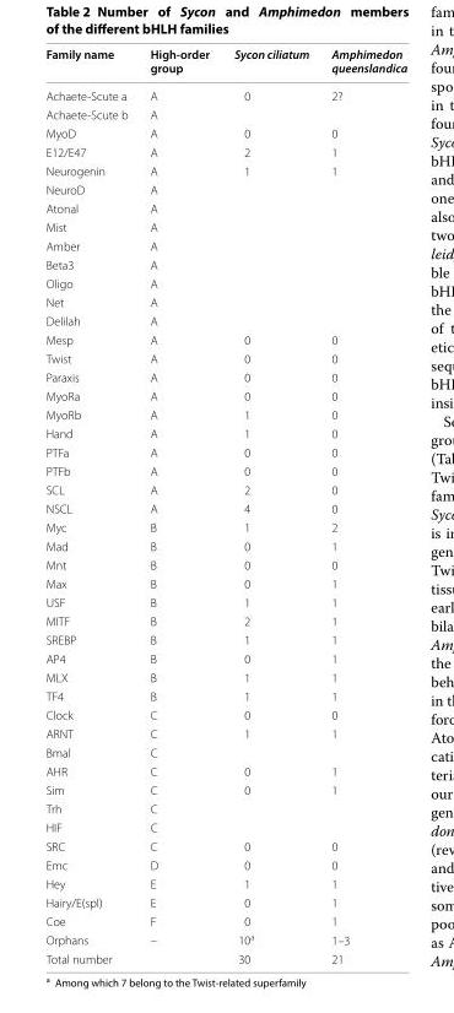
<table><thead><tr><td>Family name</td><td>High-order group</td><td>Sycon ciliatum</td><td>Amphimedon queenslandica</td></tr></thead><tbody><tr><td>Achaete-Scute a</td><td>A</td><td>0</td><td>2?</td></tr><tr><td>Achaete-Scute b</td><td>A</td><td></td><td></td></tr><tr><td>MyoD</td><td>A</td><td>0</td><td>0</td></tr><tr><td>E12/E47</td><td>A</td><td>2</td><td>1</td></tr><tr><td>Neurogenin</td><td>A</td><td rowspan="9">1</td><td rowspan="9">1</td></tr><tr><td>NeuroD</td><td>A</td></tr><tr><td>Atonal</td><td>A</td></tr><tr><td>Mist</td><td>A</td></tr><tr><td>Amber</td><td>A</td></tr><tr><td>Beta3</td><td>A</td></tr><tr><td>Oligo</td><td>A</td></tr><tr><td>Net</td><td>A</td></tr><tr><td>Delilah</td><td>A</td></tr><tr><td>Mesp</td><td>A</td><td>0</td><td>0</td></tr><tr><td>Twist</td><td>A</td><td>0</td><td>0</td></tr><tr><td>Paraxis</td><td>A</td><td>0</td><td>0</td></tr><tr><td>MyoRa</td><td>A</td><td>0</td><td>0</td></tr><tr><td>MyoRb</td><td>A</td><td>1</td><td>0</td></tr><tr><td>Hand</td><td>A</td><td>1</td><td>0</td></tr><tr><td>PTFa</td><td>A</td><td>0</td><td>0</td></tr><tr><td>PTFb</td><td>A</td><td>0</td><td>0</td></tr><tr><td>SCL</td><td>A</td><td>2</td><td>0</td></tr><tr><td>NSCL</td><td>A</td><td>4</td><td>0</td></tr><tr><td>Myc</td><td>B</td><td>1</td><td>2</td></tr><tr><td>Mad</td><td>B</td><td>0</td><td>1</td></tr><tr><td>Mnt</td><td>B</td><td>0</td><td>0</td></tr><tr><td>Max</td><td>B</td><td>0</td><td>1</td></tr><tr><td>USF</td><td>B</td><td>1</td><td>1</td></tr><tr><td>MITF</td><td>B</td><td>2</td><td>1</td></tr><tr><td>SREBP</td><td>B</td><td>1</td><td>1</td></tr><tr><td>AP4</td><td>B</td><td>0</td><td>1</td></tr><tr><td>MLX</td><td>B</td><td>1</td><td>1</td></tr><tr><td>TF4</td><td>B</td><td>1</td><td>1</td></tr><tr><td>Clock</td><td>C</td><td>0</td><td>0</td></tr><tr><td>ARNT</td><td>C</td><td rowspan="2">1</td><td rowspan="2">1</td></tr><tr><td>Bmal</td><td>C</td></tr><tr><td>AHR</td><td>C</td><td>0</td><td>1</td></tr><tr><td>Sim</td><td>C</td><td rowspan="3">0</td><td rowspan="3">1</td></tr><tr><td>Trh</td><td>C</td></tr><tr><td>HIF</td><td>C</td></tr><tr><td>SRC</td><td>C</td><td>0</td><td>0</td></tr><tr><td>Emc</td><td>D</td><td>0</td><td>0</td></tr><tr><td>Hey</td><td>E</td><td>1</td><td>1</td></tr><tr><td>Hairy/E(spl)</td><td>E</td><td>0</td><td>1</td></tr><tr><td>Coe</td><td>F</td><td>0</td><td>1</td></tr><tr><td>Orphans</td><td>–</td><td>10<sup>a</sup></td><td>1–3</td></tr><tr><td>Total number</td><td></td><td>30</td><td>21</td></tr></tbody></table>